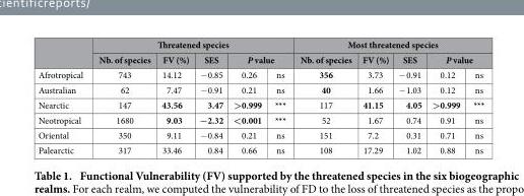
<table><thead><tr><td rowspan="3">Afrotropical</td><td colspan="5">Threatened species</td><td colspan="5">Most threatened species</td></tr><tr><td rowspan="2">Nb. of species 743</td><td rowspan="2">FV (%) 14.12</td><td rowspan="2">SES − 0.85</td><td colspan="2">P value</td><td rowspan="2">Nb. of species 356</td><td rowspan="2">FV (%) 3.73</td><td rowspan="2">SES − 0.91</td><td colspan="2">P value</td></tr><tr><td>0.26</td><td>ns</td><td>0.12</td><td>ns</td></tr></thead><tbody><tr><td>Australian</td><td>62</td><td>7.47</td><td>− 0.91</td><td>0.21</td><td>ns</td><td>40</td><td>1.66</td><td>− 1.03</td><td>0.12</td><td>ns</td></tr><tr><td>Nearctic</td><td>147</td><td>43.56</td><td>3.47</td><td>&gt;0.999</td><td>***</td><td>117</td><td>41.15</td><td>4.05</td><td>&gt;0.999</td><td>***</td></tr><tr><td>Neotropical</td><td>1680</td><td>9.03</td><td>−2.32</td><td>&lt;0.001</td><td>***</td><td>52</td><td>1.67</td><td>0.74</td><td>0.91</td><td>ns</td></tr><tr><td>Oriental</td><td>350</td><td>9.11</td><td>− 0.84</td><td>0.21</td><td>ns</td><td>151</td><td>7.2</td><td>0.31</td><td>0.71</td><td>ns</td></tr><tr><td>Palearctic</td><td>317</td><td>33.46</td><td>0.84</td><td>0.66</td><td>ns</td><td>108</td><td>17.29</td><td>1.02</td><td>0.88</td><td>ns</td></tr></tbody></table>